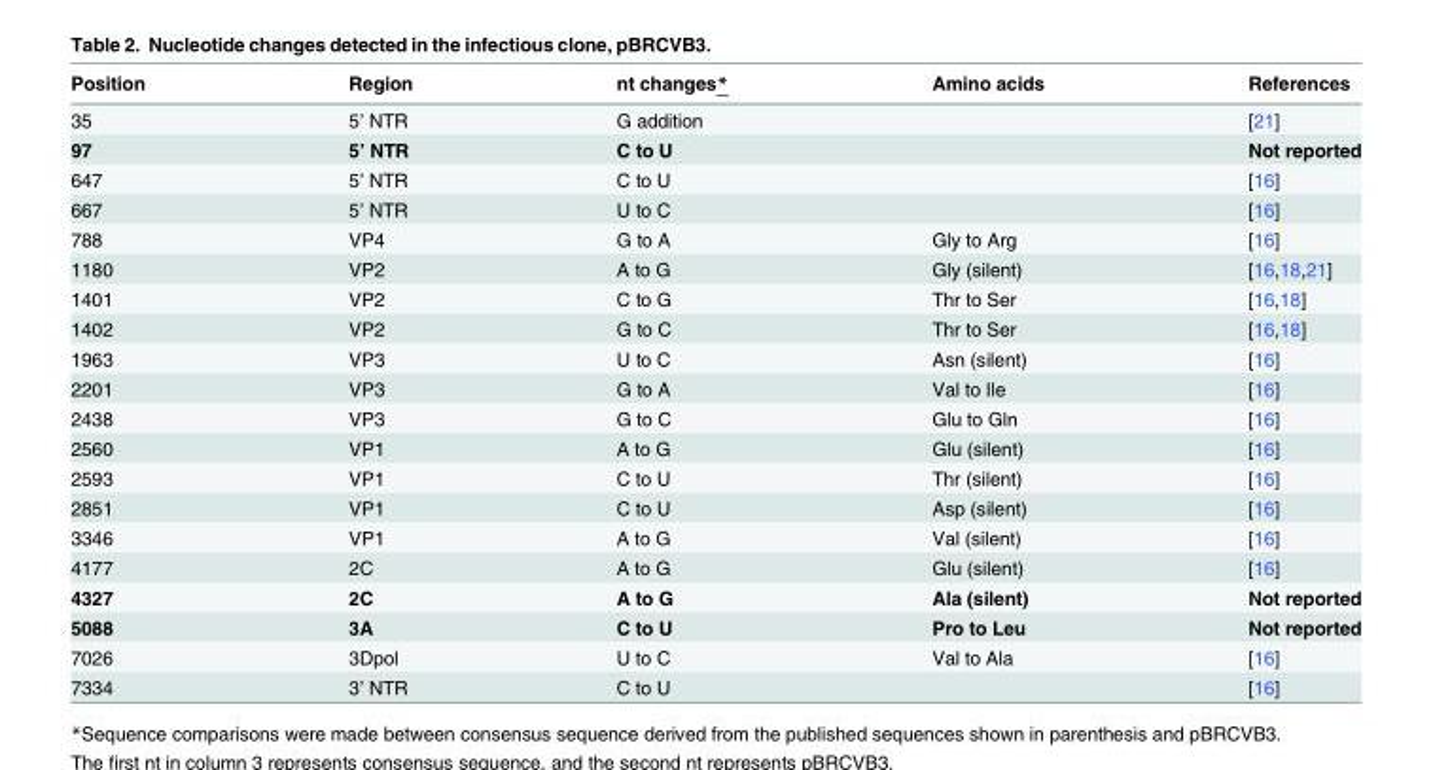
<table><thead><tr><td>Position</td><td>Region</td><td>nt changes*</td><td>Amino acids</td><td>References</td></tr></thead><tbody><tr><td>35</td><td>5’ NTR</td><td>G addition</td><td></td><td>[21]</td></tr><tr><td>97</td><td>5’ NTR</td><td>C to U</td><td></td><td>Not reported</td></tr><tr><td>647</td><td>5’ NTR</td><td>C to U</td><td></td><td>[16]</td></tr><tr><td>667</td><td>5’ NTR</td><td>U to C</td><td></td><td>[16]</td></tr><tr><td>788</td><td>VP4</td><td>G to A</td><td>Gly to Arg</td><td>[16]</td></tr><tr><td>1180</td><td>VP2</td><td>A to G</td><td>Gly (silent)</td><td>[16,18,21]</td></tr><tr><td>1401</td><td>VP2</td><td>C to G</td><td>Thr to Ser</td><td>[16,18]</td></tr><tr><td>1402</td><td>VP2</td><td>G to C</td><td>Thr to Ser</td><td>[16,18]</td></tr><tr><td>1963</td><td>VP3</td><td>U to C</td><td>Asn (silent)</td><td>[16]</td></tr><tr><td>2201</td><td>VP3</td><td>G to A</td><td>Val to Ile</td><td>[16]</td></tr><tr><td>2438</td><td>VP3</td><td>G to C</td><td>Glu to Gln</td><td>[16]</td></tr><tr><td>2560</td><td>VP1</td><td>A to G</td><td>Glu (silent)</td><td>[16]</td></tr><tr><td>2593</td><td>VP1</td><td>C to U</td><td>Thr (silent)</td><td>[16]</td></tr><tr><td>2851</td><td>VP1</td><td>C to U</td><td>Asp (silent)</td><td>[16]</td></tr><tr><td>3346</td><td>VP1</td><td>A to G</td><td>Val (silent)</td><td>[16]</td></tr><tr><td>4177</td><td>2C</td><td>A to G</td><td>Glu (silent)</td><td>[16]</td></tr><tr><td>4327</td><td>2C</td><td>A to G</td><td>Ala (silent)</td><td>Not reported</td></tr><tr><td>5088</td><td>3A</td><td>C to U</td><td>Pro to Leu</td><td>Not reported</td></tr><tr><td>7026</td><td>3Dpol</td><td>U to C</td><td>Val to Ala</td><td>[16]</td></tr><tr><td>7334</td><td>3’ NTR</td><td>C to U</td><td></td><td>[16]</td></tr></tbody></table>